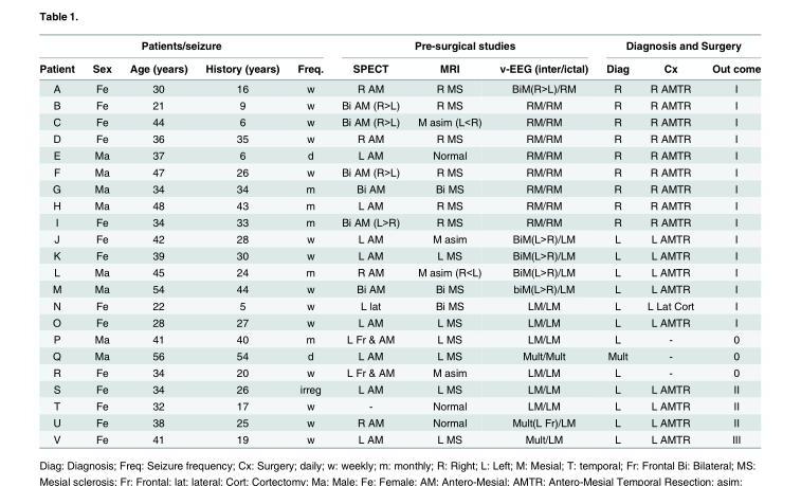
<table><thead><tr><td colspan="5">Patients/seizure</td><td colspan="3">Pre-surgical studies</td><td colspan="3">Diagnosis and Surgery</td></tr><tr><td>Patient</td><td>Sex</td><td>Age (years)</td><td>History (years)</td><td>Freq.</td><td>SPECT</td><td>MRI</td><td>v-EEG (inter/ictal)</td><td>Diag</td><td>Cx</td><td>Out come</td></tr></thead><tbody><tr><td>A</td><td>Fe</td><td>30</td><td>16</td><td>w</td><td>R AM</td><td>R MS</td><td>BiM(R&gt;L)/RM</td><td>R</td><td>R AMTR</td><td>I</td></tr><tr><td>B</td><td>Fe</td><td>21</td><td>9</td><td>w</td><td>Bi AM (R&gt;L)</td><td>R MS</td><td>RM/RM</td><td>R</td><td>R AMTR</td><td>I</td></tr><tr><td>C</td><td>Fe</td><td>44</td><td>6</td><td>w</td><td>Bi AM (R&gt;L)</td><td>M asim (L&lt;R)</td><td>RM/RM</td><td>R</td><td>R AMTR</td><td>I</td></tr><tr><td>D</td><td>Fe</td><td>36</td><td>35</td><td>w</td><td>R AM</td><td>R MS</td><td>RM/RM</td><td>R</td><td>R AMTR</td><td>I</td></tr><tr><td>E</td><td>Ma</td><td>37</td><td>6</td><td>d</td><td>L AM</td><td>Normal</td><td>RM/RM</td><td>R</td><td>R AMTR</td><td>I</td></tr><tr><td>F</td><td>Ma</td><td>47</td><td>26</td><td>w</td><td>Bi AM (R&gt;L)</td><td>R MS</td><td>RM/RM</td><td>R</td><td>R AMTR</td><td>I</td></tr><tr><td>G</td><td>Ma</td><td>34</td><td>34</td><td>m</td><td>Bi AM</td><td>Bi MS</td><td>RM/RM</td><td>R</td><td>R AMTR</td><td>I</td></tr><tr><td>H</td><td>Ma</td><td>48</td><td>43</td><td>m</td><td>L AM</td><td>R MS</td><td>RM/RM</td><td>R</td><td>R AMTR</td><td>I</td></tr><tr><td>I</td><td>Fe</td><td>34</td><td>33</td><td>m</td><td>Bi AM (L&gt;R)</td><td>R MS</td><td>RM/RM</td><td>R</td><td>R AMTR</td><td>I</td></tr><tr><td>J</td><td>Fe</td><td>42</td><td>28</td><td>w</td><td>L AM</td><td>M asim</td><td>BiM(L&gt;R)/LM</td><td>L</td><td>L AMTR</td><td>I</td></tr><tr><td>K</td><td>Fe</td><td>39</td><td>30</td><td>w</td><td>L AM</td><td>L MS</td><td>BiM(L&gt;R)/LM</td><td>L</td><td>L AMTR</td><td>I</td></tr><tr><td>L</td><td>Ma</td><td>45</td><td>24</td><td>m</td><td>R AM</td><td>M asim (R&lt;L)</td><td>BiM(L&gt;R)/LM</td><td>L</td><td>L AMTR</td><td>I</td></tr><tr><td>M</td><td>Ma</td><td>54</td><td>44</td><td>w</td><td>Bi AM</td><td>Bi MS</td><td>biM(L&gt;R)/LM</td><td>L</td><td>L AMTR</td><td>I</td></tr><tr><td>N</td><td>Fe</td><td>22</td><td>5</td><td>w</td><td>L lat</td><td>Bi MS</td><td>LM/LM</td><td>L</td><td>L Lat Cort</td><td>I</td></tr><tr><td>O</td><td>Fe</td><td>28</td><td>27</td><td>w</td><td>L AM</td><td>L MS</td><td>LM/LM</td><td>L</td><td>L AMTR</td><td>I</td></tr><tr><td>P</td><td>Ma</td><td>41</td><td>40</td><td>m</td><td>L Fr &amp; AM</td><td>L MS</td><td>LM/LM</td><td>L</td><td>-</td><td>0</td></tr><tr><td>Q</td><td>Ma</td><td>56</td><td>54</td><td>d</td><td>L AM</td><td>L MS</td><td>Mult/Mult</td><td>Mult</td><td>-</td><td>0</td></tr><tr><td>R</td><td>Fe</td><td>34</td><td>20</td><td>w</td><td>L Fr &amp; AM</td><td>M asim</td><td>LM/LM</td><td>L</td><td>-</td><td>0</td></tr><tr><td>S</td><td>Fe</td><td>34</td><td>26</td><td>irreg</td><td>L AM</td><td>L MS</td><td>LM/LM</td><td>L</td><td>L AMTR</td><td>II</td></tr><tr><td>T</td><td>Fe</td><td>32</td><td>17</td><td>w</td><td>-</td><td>Normal</td><td>LM/LM</td><td>L</td><td>L AMTR</td><td>II</td></tr><tr><td>U</td><td>Fe</td><td>38</td><td>25</td><td>w</td><td>R AM</td><td>Normal</td><td>Mult(L Fr)/LM</td><td>L</td><td>L AMTR</td><td>II</td></tr><tr><td>V</td><td>Fe</td><td>41</td><td>19</td><td>w</td><td>L AM</td><td>L MS</td><td>Mult/LM</td><td>L</td><td>L AMTR</td><td>III</td></tr></tbody></table>